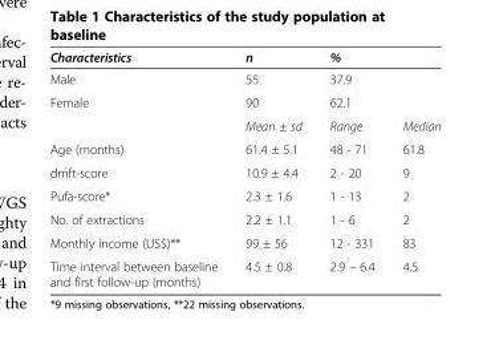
<table><thead><tr><td rowspan="4">Characteristics Male Female</td><td rowspan="4">n 55 90 Mean ± sd</td><td rowspan="3" colspan="2">% 37.9 62.1</td></tr><tr></tr><tr></tr><tr><td>Range</td><td>Median</td></tr></thead><tbody><tr><td>Age (months)</td><td>61.4 ± 5.1</td><td>48 - 71</td><td>61.8</td></tr><tr><td>dmft-score</td><td>10.9 ± 4.4</td><td>2 - 20</td><td>9</td></tr><tr><td>Pufa-score*</td><td>2.3 ± 1.6</td><td>1 - 13</td><td>2</td></tr><tr><td>No. of extractions</td><td>2.2 ± 1.1</td><td>1 - 6</td><td>2</td></tr><tr><td>Monthly income (US$)**</td><td>99 ± 56</td><td>12 - 331</td><td>83</td></tr><tr><td>Time interval between baseline and first follow-up (months)</td><td>4.5 ± 0.8</td><td>2.9 – 6.4</td><td>4.5</td></tr></tbody></table>